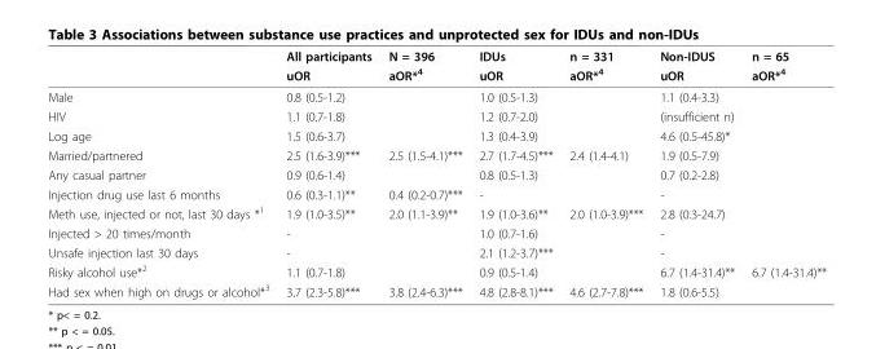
<table><thead><tr><td rowspan="2"></td><td rowspan="2">All participants uOR</td><td rowspan="2">N = 396 aOR*<sup>4</sup></td><td rowspan="2">IDUs uOR</td><td rowspan="2">n = 331 aOR*<sup>4</sup></td><td rowspan="2">Non-IDUS uOR</td><td rowspan="2">n = 65 aOR*<sup>4</sup></td></tr><tr></tr></thead><tbody><tr><td>Male</td><td>0.8 (0.5-1.2)</td><td></td><td>1.0 (0.5-1.3)</td><td></td><td>1.1 (0.4-3.3)</td><td></td></tr><tr><td>HIV</td><td>1.1 (0.7-1.8)</td><td></td><td>1.2 (0.7-2.0)</td><td></td><td>(insufficient n)</td><td></td></tr><tr><td>Log age</td><td>1.5 (0.6-3.7)</td><td></td><td>1.3 (0.4-3.9)</td><td></td><td>4.6 (0.5-45.8)*</td><td></td></tr><tr><td>Married/partnered</td><td>2.5 (1.6-3.9)***</td><td>2.5 (1.5-4.1)***</td><td>2.7 (1.7-4.5)***</td><td>2.4 (1.4-4.1)</td><td>1.9 (0.5-7.9)</td><td></td></tr><tr><td>Any casual partner</td><td>0.9 (0.6-1.4)</td><td></td><td>0.8 (0.5-1.3)</td><td></td><td>0.7 (0.2-2.8)</td><td></td></tr><tr><td>Injection drug use last 6 months</td><td>0.6 (0.3-1.1)**</td><td>0.4 (0.2-0.7)***</td><td>-</td><td></td><td>-</td><td></td></tr><tr><td>Meth use, injected or not, last 30 days *<sup>1</sup></td><td>1.9 (1.0-3.5)**</td><td>2.0 (1.1-3.9)**</td><td>1.9 (1.0-3.6)**</td><td>2.0 (1.0-3.9)***</td><td>2.8 (0.3-24.7)</td><td></td></tr><tr><td>Injected &gt; 20 times/month</td><td>-</td><td></td><td>1.0 (0.7-1.6)</td><td></td><td>-</td><td></td></tr><tr><td>Unsafe injection last 30 days</td><td>-</td><td></td><td>2.1 (1.2-3.7)***</td><td></td><td>-</td><td></td></tr><tr><td>Risky alcohol use*<sup>2</sup></td><td>1.1 (0.7-1.8)</td><td></td><td>0.9 (0.5-1.4)</td><td></td><td>6.7 (1.4-31.4)**</td><td>6.7 (1.4-31.4)**</td></tr><tr><td>Had sex when high on drugs or alcohol*<sup>3</sup></td><td>3.7 (2.3-5.8)***</td><td>3.8 (2.4-6.3)***</td><td>4.8 (2.8-8.1)***</td><td>4.6 (2.7-7.8)***</td><td>1.8 (0.6-5.5)</td><td></td></tr></tbody></table>